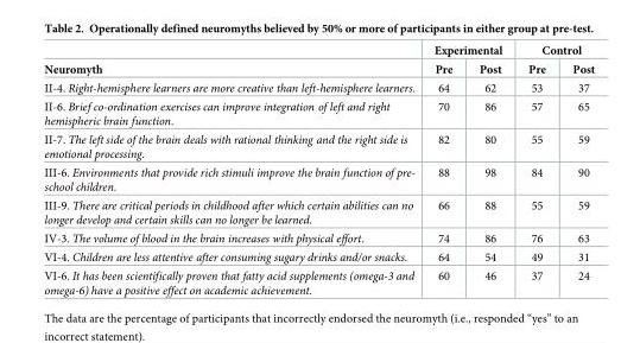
<table><thead><tr><td rowspan="2">Neuromyth</td><td colspan="2">Experimental</td><td colspan="2">Control</td></tr><tr><td>Pre</td><td>Post</td><td>Pre</td><td>Post</td></tr></thead><tbody><tr><td>II-4. Right-hemisphere learners are more creative than left-hemisphere learners.</td><td>64</td><td>62</td><td>53</td><td>37</td></tr><tr><td>II-6. Brief co-ordination exercises can improve integration of left and right hemispheric brain function.</td><td>70</td><td>86</td><td>57</td><td>65</td></tr><tr><td>II-7. The left side of the brain deals with rational thinking and the right side is emotional processing.</td><td>82</td><td>80</td><td>55</td><td>59</td></tr><tr><td>III-6. Environments that provide rich stimuli improve the brain function of pre- school children.</td><td>88</td><td>98</td><td>84</td><td>90</td></tr><tr><td>III-9. There are critical periods in childhood after which certain abilities can no longer develop and certain skills can no longer be learned.</td><td>66</td><td>88</td><td>55</td><td>59</td></tr><tr><td>IV-3. The volume of blood in the brain increases with physical effort.</td><td>74</td><td>86</td><td>76</td><td>63</td></tr><tr><td>VI-4. Children are less attentive after consuming sugary drinks and/or snacks.</td><td>64</td><td>54</td><td>49</td><td>31</td></tr><tr><td>VI-6. It has been scientifically proven that fatty acid supplements (omega-3 and omega-6) have a positive effect on academic achievement.</td><td>60</td><td>46</td><td>37</td><td>24</td></tr></tbody></table>